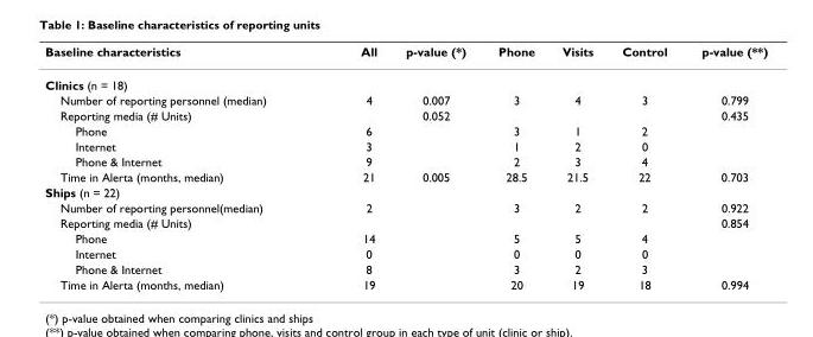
<table><thead><tr><td>Baseline characteristics</td><td>All</td><td>p-value (*)</td><td>Phone</td><td>Visits</td><td>Control</td><td>p-value (**)</td></tr></thead><tbody><tr><td colspan="7">Clinics (n = 18)</td></tr><tr><td>Number of reporting personnel (median)</td><td>4</td><td>0.007</td><td>3</td><td>4</td><td>3</td><td>0.799</td></tr><tr><td>Reporting media (# Units)</td><td></td><td>0.052</td><td></td><td></td><td></td><td>0.435</td></tr><tr><td>Phone</td><td>6</td><td></td><td>3</td><td>1</td><td>2</td><td></td></tr><tr><td>Internet</td><td>3</td><td></td><td>1</td><td>2</td><td>0</td><td></td></tr><tr><td>Phone &amp; Internet</td><td>9</td><td></td><td>2</td><td>3</td><td>4</td><td></td></tr><tr><td>Time in Alerta (months, median)</td><td>21</td><td>0.005</td><td>28.5</td><td>21.5</td><td>22</td><td>0.703</td></tr><tr><td colspan="7">Ships (n = 22)</td></tr><tr><td>Number of reporting personnel(median)</td><td>2</td><td></td><td>3</td><td>2</td><td>2</td><td>0.922</td></tr><tr><td>Reporting media (# Units)</td><td></td><td></td><td></td><td></td><td></td><td>0.854</td></tr><tr><td>Phone</td><td>14</td><td></td><td>5</td><td>5</td><td>4</td><td></td></tr><tr><td>Internet</td><td>0</td><td></td><td>0</td><td>0</td><td>0</td><td></td></tr><tr><td>Phone &amp; Internet</td><td>8</td><td></td><td>3</td><td>2</td><td>3</td><td></td></tr><tr><td>Time in Alerta (months, median)</td><td>19</td><td></td><td>20</td><td>19</td><td>18</td><td>0.994</td></tr></tbody></table>